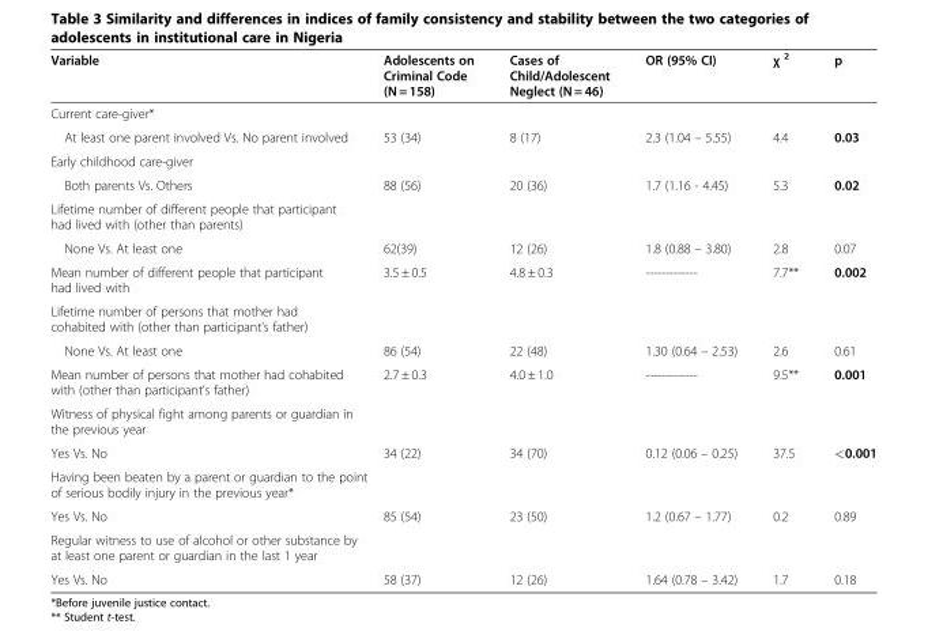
<table><thead><tr><td>Variable</td><td>Adolescents on Criminal Code (N = 158)</td><td>Cases of Child/Adolescent Neglect (N = 46)</td><td>OR (95% CI)</td><td>χ <sup>2</sup></td><td>p</td></tr></thead><tbody><tr><td colspan="6">Current care-giver*</td></tr><tr><td>At least one parent involved Vs. No parent involved</td><td>53 (34)</td><td>8 (17)</td><td>2.3 (1.04 – 5.55)</td><td>4.4</td><td>0.03</td></tr><tr><td colspan="6">Early childhood care-giver</td></tr><tr><td>Both parents Vs. Others</td><td>88 (56)</td><td>20 (36)</td><td>1.7 (1.16 - 4.45)</td><td>5.3</td><td>0.02</td></tr><tr><td colspan="6">Lifetime number of different people that participant had lived with (other than parents)</td></tr><tr><td>None Vs. At least one</td><td>62(39)</td><td>12 (26)</td><td>1.8 (0.88 – 3.80)</td><td>2.8</td><td>0.07</td></tr><tr><td>Mean number of different people that participant had lived with</td><td>3.5 ± 0.5</td><td>4.8 ± 0.3</td><td>-------------</td><td>7.7**</td><td>0.002</td></tr><tr><td colspan="6">Lifetime number of persons that mother had cohabited with (other than participant’s father)</td></tr><tr><td>None Vs. At least one</td><td>86 (54)</td><td>22 (48)</td><td>1.30 (0.64 – 2.53)</td><td>2.6</td><td>0.61</td></tr><tr><td>Mean number of persons that mother had cohabited with (other than participant’s father)</td><td>2.7 ± 0.3</td><td>4.0 ± 1.0</td><td>-------------</td><td>9.5**</td><td>0.001</td></tr><tr><td colspan="6">Witness of physical fight among parents or guardian in the previous year</td></tr><tr><td>Yes Vs. No</td><td>34 (22)</td><td>34 (70)</td><td>0.12 (0.06 – 0.25)</td><td>37.5</td><td>&lt;0.001</td></tr><tr><td colspan="6">Having been beaten by a parent or guardian to the point of serious bodily injury in the previous year*</td></tr><tr><td>Yes Vs. No</td><td>85 (54)</td><td>23 (50)</td><td>1.2 (0.67 – 1.77)</td><td>0.2</td><td>0.89</td></tr><tr><td colspan="6">Regular witness to use of alcohol or other substance by at least one parent or guardian in the last 1 year</td></tr><tr><td>Yes Vs. No</td><td>58 (37)</td><td>12 (26)</td><td>1.64 (0.78 – 3.42)</td><td>1.7</td><td>0.18</td></tr></tbody></table>